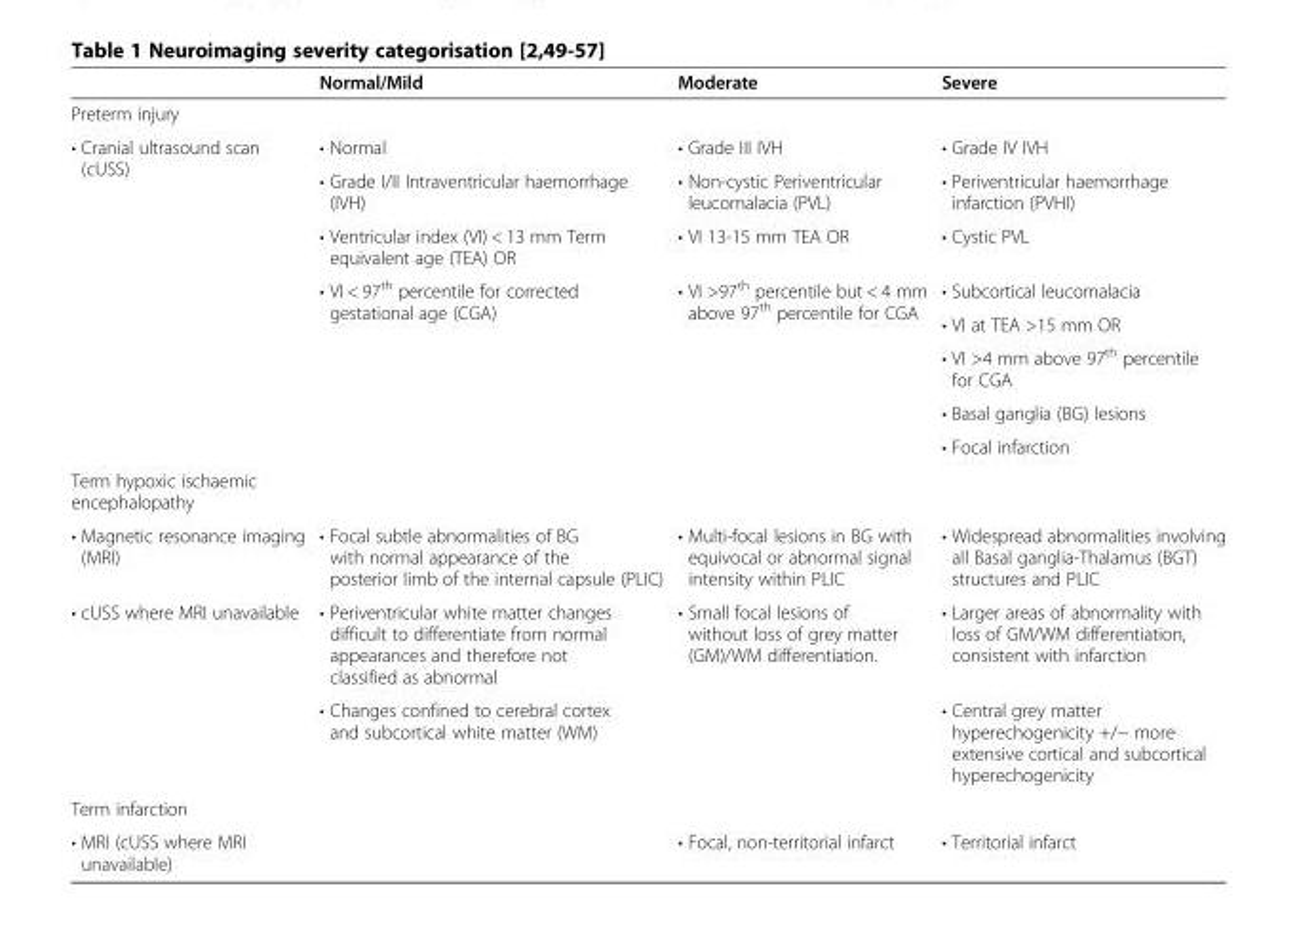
<table><thead><tr><td></td><td>Normal/Mild</td><td>Moderate</td><td>Severe</td></tr></thead><tbody><tr><td colspan="4">Preterm injury</td></tr><tr><td rowspan="8">• Cranial ultrasound scan (cUSS)</td><td>• Normal</td><td>• Grade III IVH</td><td>• Grade IV IVH</td></tr><tr><td>• Grade I/II Intraventricular haemorrhage (IVH)</td><td>• Non-cystic Periventricular leucomalacia (PVL)</td><td>• Periventricular haemorrhage infarction (PVHI)</td></tr><tr><td>• Ventricular index (VI) &lt; 13 mm Term equivalent age (TEA) OR</td><td>• VI 13-15 mm TEA OR</td><td>• Cystic PVL</td></tr><tr><td rowspan="5">• VI &lt; 97<sup>th</sup> percentile for corrected gestational age (CGA)</td><td rowspan="5">• VI &gt;97<sup>th</sup> percentile but &lt; 4 mm above 97<sup>th</sup> percentile for CGA</td><td>• Subcortical leucomalacia</td></tr><tr><td>• VI at TEA &gt;15 mm OR</td></tr><tr><td>• VI &gt;4 mm above 97<sup>th</sup> percentile for CGA</td></tr><tr><td>• Basal ganglia (BG) lesions</td></tr><tr><td>• Focal infarction</td></tr><tr><td colspan="4">Term hypoxic ischaemic encephalopathy</td></tr><tr><td>• Magnetic resonance imaging (MRI)</td><td>• Focal subtle abnormalities of BG with normal appearance of the posterior limb of the internal capsule (PLIC)</td><td>• Multi-focal lesions in BG with equivocal or abnormal signal intensity within PLIC</td><td>• Widespread abnormalities involving all Basal ganglia-Thalamus (BGT) structures and PLIC</td></tr><tr><td rowspan="2">• cUSS where MRI unavailable</td><td>• Periventricular white matter changes difficult to differentiate from normal appearances and therefore not classified as abnormal</td><td>• Small focal lesions of without loss of grey matter (GM)/WM differentiation.</td><td>• Larger areas of abnormality with loss of GM/WM differentiation, consistent with infarction</td></tr><tr><td>• Changes confined to cerebral cortex and subcortical white matter (WM)</td><td></td><td>• Central grey matter hyperechogenicity +/− more extensive cortical and subcortical hyperechogenicity</td></tr><tr><td colspan="4">Term infarction</td></tr><tr><td>• MRI (cUSS where MRI unavailable)</td><td></td><td>• Focal, non-territorial infarct</td><td>• Territorial infarct</td></tr></tbody></table>